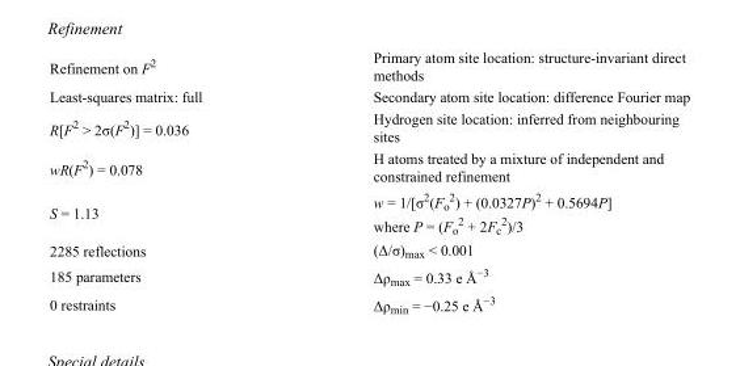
<table><tbody><tr><td>Refinement on F<sup>2</sup></td><td>Primary atom site location: structure-invariant direct methods</td></tr><tr><td>Least-squares matrix: full</td><td>Secondary atom site location: difference Fourier map</td></tr><tr><td>R[F<sup>2</sup> &gt; 2σ(F<sup>2</sup>)] = 0.036</td><td>Hydrogen site location: inferred from neighbouring sites</td></tr><tr><td>wR(F<sup>2</sup>) = 0.078</td><td>H atoms treated by a mixture of independent and constrained refinement</td></tr><tr><td>S = 1.13</td><td>w = 1/[σ<sup>2</sup>(F<sub>o</sub> <sup>2</sup>) + (0.0327P)<sup>2</sup> + 0.5694P] where P = (F<sub>o</sub> <sup>2</sup> + 2F<sub>c</sub> <sup>2</sup>)/3</td></tr><tr><td>2285 reflections</td><td>(Δ/σ)<sub>max</sub> &lt; 0.001</td></tr><tr><td>185 parameters</td><td>Δρ<sub>max</sub> = 0.33 e Å<sup>−3</sup></td></tr><tr><td>0 restraints</td><td>Δρ<sub>min</sub> = −0.25 e Å<sup>−3</sup></td></tr></tbody></table>